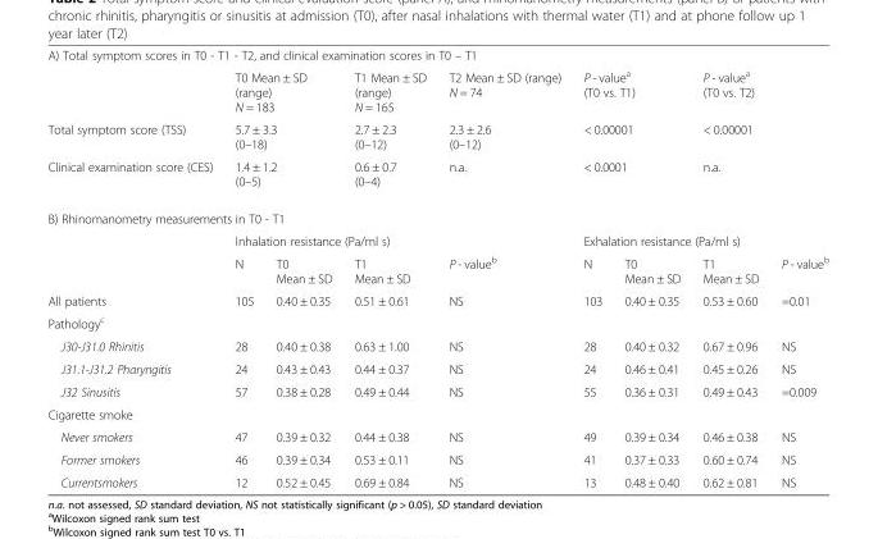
<table><tbody><tr><td colspan="9">A) Total symptom scores in T0 - T1 - T2, and clinical examination scores in T0 – T1</td></tr><tr><td></td><td colspan="2">T0 Mean ± SD (range) N = 183</td><td>T1 Mean ± SD (range) N = 165</td><td>T2 Mean ± SD (range) N = 74</td><td colspan="2">P - valuea (T0 vs. T1)</td><td colspan="2">P - valuea (T0 vs. T2)</td></tr><tr><td>Total symptom score (TSS)</td><td colspan="2">5.7 ± 3.3 (0–18)</td><td>2.7 ± 2.3 (0–12)</td><td>2.3 ± 2.6 (0–12)</td><td colspan="2">&lt; 0.00001</td><td colspan="2">&lt; 0.00001</td></tr><tr><td>Clinical examination score (CES)</td><td colspan="2">1.4 ± 1.2 (0–5)</td><td>0.6 ± 0.7 (0–4)</td><td>n.a.</td><td colspan="2">&lt; 0.0001</td><td colspan="2">n.a.</td></tr><tr><td colspan="9">B) Rhinomanometry measurements in T0 - T1</td></tr><tr><td></td><td colspan="4">Inhalation resistance (Pa/ml s)</td><td colspan="4">Exhalation resistance (Pa/ml s)</td></tr><tr><td></td><td>N</td><td>T0 Mean ± SD</td><td>T1 Mean ± SD</td><td>P - valueb</td><td>N</td><td>T0 Mean ± SD</td><td>T1 Mean ± SD</td><td>P - valueb</td></tr><tr><td>All patients</td><td>105</td><td>0.40 ± 0.35</td><td>0.51 ± 0.61</td><td>NS</td><td>103</td><td>0.40 ± 0.35</td><td>0.53 ± 0.60</td><td>=0.01</td></tr><tr><td colspan="9">Pathologyc</td></tr><tr><td>J30-J31.0 Rhinitis</td><td>28</td><td>0.40 ± 0.38</td><td>0.63 ± 1.00</td><td>NS</td><td>28</td><td>0.40 ± 0.32</td><td>0.67 ± 0.96</td><td>NS</td></tr><tr><td>J31.1-J31.2 Pharyngitis</td><td>24</td><td>0.43 ± 0.43</td><td>0.44 ± 0.37</td><td>NS</td><td>24</td><td>0.46 ± 0.41</td><td>0.45 ± 0.26</td><td>NS</td></tr><tr><td>J32 Sinusitis</td><td>57</td><td>0.38 ± 0.28</td><td>0.49 ± 0.44</td><td>NS</td><td>55</td><td>0.36 ± 0.31</td><td>0.49 ± 0.43</td><td>=0.009</td></tr><tr><td colspan="9">Cigarette smoke</td></tr><tr><td>Never smokers</td><td>47</td><td>0.39 ± 0.32</td><td>0.44 ± 0.38</td><td>NS</td><td>49</td><td>0.39 ± 0.34</td><td>0.46 ± 0.38</td><td>NS</td></tr><tr><td>Former smokers</td><td>46</td><td>0.39 ± 0.34</td><td>0.53 ± 0.11</td><td>NS</td><td>41</td><td>0.37 ± 0.33</td><td>0.60 ± 0.74</td><td>NS</td></tr><tr><td>Currentsmokers</td><td>12</td><td>0.52 ± 0.45</td><td>0.69 ± 0.84</td><td>NS</td><td>13</td><td>0.48 ± 0.40</td><td>0.62 ± 0.81</td><td>NS</td></tr></tbody></table>